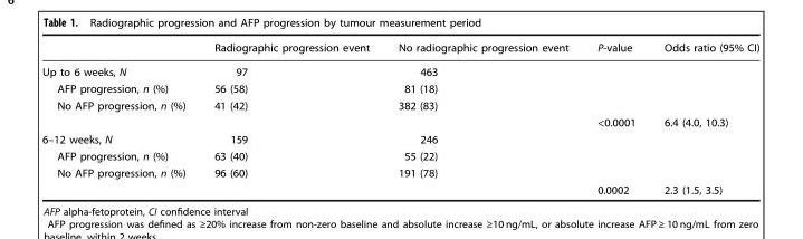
<table><thead><tr><td></td><td>Radiographic progression event</td><td>No radiographic progression event</td><td>P-value</td><td>Odds ratio (95% CI)</td></tr></thead><tbody><tr><td>Up to 6 weeks, N</td><td>97</td><td>463</td><td></td><td></td></tr><tr><td>AFP progression, n (%)</td><td>56 (58)</td><td>81 (18)</td><td></td><td></td></tr><tr><td rowspan="2">No AFP progression, n (%)</td><td>41 (42)</td><td>382 (83)</td><td></td><td></td></tr><tr><td></td><td></td><td>&lt;0.0001</td><td>6.4 (4.0, 10.3)</td></tr><tr><td>6–12 weeks, N</td><td>159</td><td>246</td><td></td><td></td></tr><tr><td>AFP progression, n (%)</td><td>63 (40)</td><td>55 (22)</td><td></td><td></td></tr><tr><td rowspan="2">No AFP progression, n (%)</td><td>96 (60)</td><td>191 (78)</td><td></td><td></td></tr><tr><td></td><td></td><td>0.0002</td><td>2.3 (1.5, 3.5)</td></tr></tbody></table>